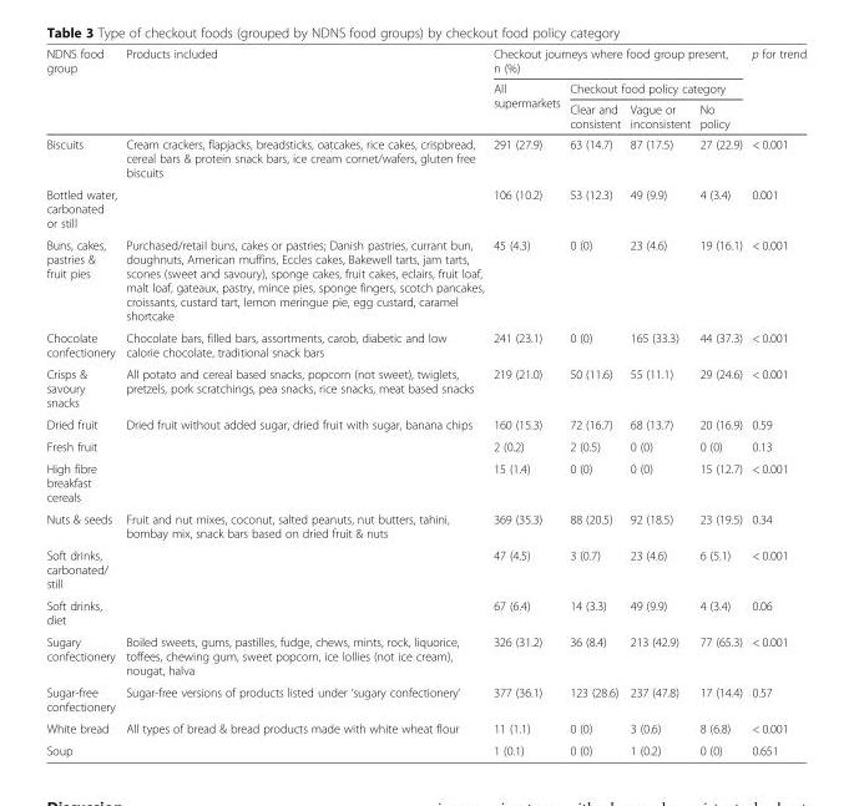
<table><thead><tr><td rowspan="3">NDNS food group</td><td rowspan="3">Products included</td><td colspan="4">Checkout journeys where food group present, n (%)</td><td rowspan="3">p for trend</td></tr><tr><td rowspan="2">All supermarkets</td><td colspan="3">Checkout food policy category</td></tr><tr><td>Clear and consistent</td><td>Vague or inconsistent</td><td>No policy</td></tr></thead><tbody><tr><td>Biscuits</td><td>Cream crackers, flapjacks, breadsticks, oatcakes, rice cakes, crispbread, cereal bars &amp; protein snack bars, ice cream cornet/wafers, gluten free biscuits</td><td>291 (27.9)</td><td>63 (14.7)</td><td>87 (17.5)</td><td>27 (22.9)</td><td>&lt; 0.001</td></tr><tr><td>Bottled water, carbonated or still</td><td></td><td>106 (10.2)</td><td>53 (12.3)</td><td>49 (9.9)</td><td>4 (3.4)</td><td>0.001</td></tr><tr><td>Buns, cakes, pastries &amp; fruit pies</td><td>Purchased/retail buns, cakes or pastries; Danish pastries, currant bun, doughnuts, American muffins, Eccles cakes, Bakewell tarts, jam tarts, scones (sweet and savoury), sponge cakes, fruit cakes, eclairs, fruit loaf, malt loaf, gateaux, pastry, mince pies, sponge fingers, scotch pancakes, croissants, custard tart, lemon meringue pie, egg custard, caramel shortcake</td><td>45 (4.3)</td><td>0 (0)</td><td>23 (4.6)</td><td>19 (16.1)</td><td>&lt; 0.001</td></tr><tr><td>Chocolate confectionery</td><td>Chocolate bars, filled bars, assortments, carob, diabetic and low calorie chocolate, traditional snack bars</td><td>241 (23.1)</td><td>0 (0)</td><td>165 (33.3)</td><td>44 (37.3)</td><td>&lt; 0.001</td></tr><tr><td>Crisps &amp; savoury snacks</td><td>All potato and cereal based snacks, popcorn (not sweet), twiglets, pretzels, pork scratchings, pea snacks, rice snacks, meat based snacks</td><td>219 (21.0)</td><td>50 (11.6)</td><td>55 (11.1)</td><td>29 (24.6)</td><td>&lt; 0.001</td></tr><tr><td>Dried fruit</td><td>Dried fruit without added sugar, dried fruit with sugar, banana chips</td><td>160 (15.3)</td><td>72 (16.7)</td><td>68 (13.7)</td><td>20 (16.9)</td><td>0.59</td></tr><tr><td>Fresh fruit</td><td></td><td>2 (0.2)</td><td>2 (0.5)</td><td>0 (0)</td><td>0 (0)</td><td>0.13</td></tr><tr><td>High fibre breakfast cereals</td><td></td><td>15 (1.4)</td><td>0 (0)</td><td>0 (0)</td><td>15 (12.7)</td><td>&lt; 0.001</td></tr><tr><td>Nuts &amp; seeds</td><td>Fruit and nut mixes, coconut, salted peanuts, nut butters, tahini, bombay mix, snack bars based on dried fruit &amp; nuts</td><td>369 (35.3)</td><td>88 (20.5)</td><td>92 (18.5)</td><td>23 (19.5)</td><td>0.34</td></tr><tr><td>Soft drinks, carbonated/ still</td><td></td><td>47 (4.5)</td><td>3 (0.7)</td><td>23 (4.6)</td><td>6 (5.1)</td><td>&lt; 0.001</td></tr><tr><td>Soft drinks, diet</td><td></td><td>67 (6.4)</td><td>14 (3.3)</td><td>49 (9.9)</td><td>4 (3.4)</td><td>0.06</td></tr><tr><td>Sugary confectionery</td><td>Boiled sweets, gums, pastilles, fudge, chews, mints, rock, liquorice, toffees, chewing gum, sweet popcorn, ice lollies (not ice cream), nougat, halva</td><td>326 (31.2)</td><td>36 (8.4)</td><td>213 (42.9)</td><td>77 (65.3)</td><td>&lt; 0.001</td></tr><tr><td>Sugar-free confectionery</td><td>Sugar-free versions of products listed under ‘sugary confectionery’</td><td>377 (36.1)</td><td>123 (28.6)</td><td>237 (47.8)</td><td>17 (14.4)</td><td>0.57</td></tr><tr><td>White bread</td><td>All types of bread &amp; bread products made with white wheat flour</td><td>11 (1.1)</td><td>0 (0)</td><td>3 (0.6)</td><td>8 (6.8)</td><td>&lt; 0.001</td></tr><tr><td>Soup</td><td></td><td>1 (0.1)</td><td>0 (0)</td><td>1 (0.2)</td><td>0 (0)</td><td>0.651</td></tr></tbody></table>